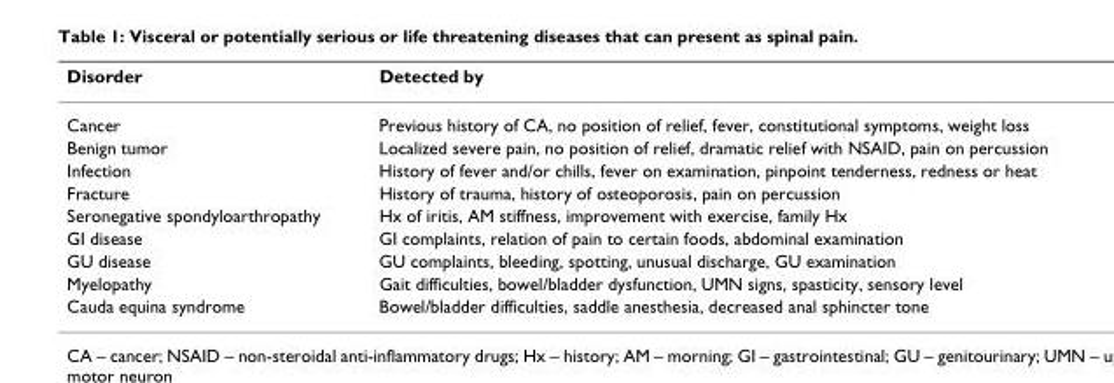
<table><thead><tr><td>Disorder</td><td>Detected by</td></tr></thead><tbody><tr><td>Cancer</td><td>Previous history of CA, no position of relief, fever, constitutional symptoms, weight loss</td></tr><tr><td>Benign tumor</td><td>Localized severe pain, no position of relief, dramatic relief with NSAID, pain on percussion</td></tr><tr><td>Infection</td><td>History of fever and/or chills, fever on examination, pinpoint tenderness, redness or heat</td></tr><tr><td>Fracture</td><td>History of trauma, history of osteoporosis, pain on percussion</td></tr><tr><td>Seronegative spondyloarthropathy</td><td>Hx of iritis, AM stiffness, improvement with exercise, family Hx</td></tr><tr><td>GI disease</td><td>GI complaints, relation of pain to certain foods, abdominal examination</td></tr><tr><td>GU disease</td><td>GU complaints, bleeding, spotting, unusual discharge, GU examination</td></tr><tr><td>Myelopathy</td><td>Gait difficulties, bowel/bladder dysfunction, UMN signs, spasticity, sensory level</td></tr><tr><td>Cauda equina syndrome</td><td>Bowel/bladder difficulties, saddle anesthesia, decreased anal sphincter tone</td></tr></tbody></table>